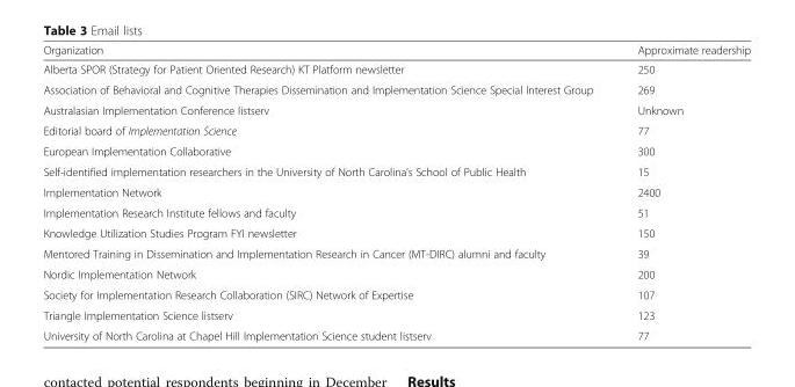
<table><thead><tr><td>Organization</td><td>Approximate readership</td></tr></thead><tbody><tr><td>Alberta SPOR (Strategy for Patient Oriented Research) KT Platform newsletter</td><td>250</td></tr><tr><td>Association of Behavioral and Cognitive Therapies Dissemination and Implementation Science Special Interest Group</td><td>269</td></tr><tr><td>Australasian Implementation Conference listserv</td><td>Unknown</td></tr><tr><td>Editorial board of Implementation Science</td><td>77</td></tr><tr><td>European Implementation Collaborative</td><td>300</td></tr><tr><td>Self-identified implementation researchers in the University of North Carolina’s School of Public Health</td><td>15</td></tr><tr><td>Implementation Network</td><td>2400</td></tr><tr><td>Implementation Research Institute fellows and faculty</td><td>51</td></tr><tr><td>Knowledge Utilization Studies Program FYI newsletter</td><td>150</td></tr><tr><td>Mentored Training in Dissemination and Implementation Research in Cancer (MT-DIRC) alumni and faculty</td><td>39</td></tr><tr><td>Nordic Implementation Network</td><td>200</td></tr><tr><td>Society for Implementation Research Collaboration (SIRC) Network of Expertise</td><td>107</td></tr><tr><td>Triangle Implementation Science listserv</td><td>123</td></tr><tr><td>University of North Carolina at Chapel Hill Implementation Science student listserv</td><td>77</td></tr></tbody></table>